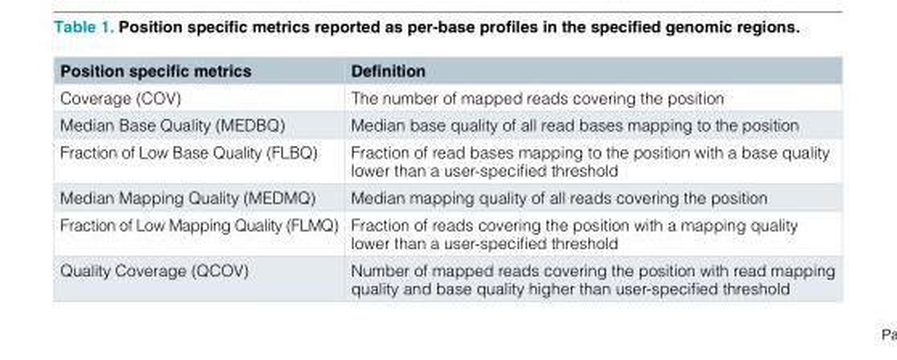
<table><thead><tr><td>Position specific metrics</td><td>Definition</td></tr></thead><tbody><tr><td>Coverage (COV)</td><td>The number of mapped reads covering the position</td></tr><tr><td>Median Base Quality (MEDBQ)</td><td>Median base quality of all read bases mapping to the position</td></tr><tr><td>Fraction of Low Base Quality (FLBQ)</td><td>Fraction of read bases mapping to the position with a base quality lower than a user-specified threshold</td></tr><tr><td>Median Mapping Quality (MEDMQ)</td><td>Median mapping quality of all reads covering the position</td></tr><tr><td>Fraction of Low Mapping Quality (FLMQ)</td><td>Fraction of reads covering the position with a mapping quality lower than a user-specified threshold</td></tr><tr><td>Quality Coverage (QCOV)</td><td>Number of mapped reads covering the position with read mapping quality and base quality higher than user-specified threshold</td></tr></tbody></table>